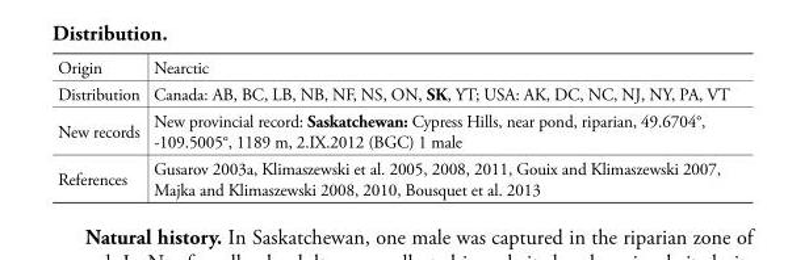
<table><tbody><tr><td>Origin</td><td>Nearctic</td></tr><tr><td>Distribution</td><td>Canada: AB, BC, LB, NB, NF, NS, ON, SK, YT; USA: AK, DC, NC, NJ, NY, PA, VT</td></tr><tr><td>New records</td><td>New provincial record: Saskatchewan: Cypress Hills, near pond, riparian, 49.6704°, -109.5005°, 1189 m, 2.IX.2012 (BGC) 1 male</td></tr><tr><td>References</td><td>Gusarov 2003a, Klimaszewski et al. 2005, 2008, 2011, Gouix and Klimaszewski 2007, Majka and Klimaszewski 2008, 2010, Bousquet et al. 2013</td></tr></tbody></table>